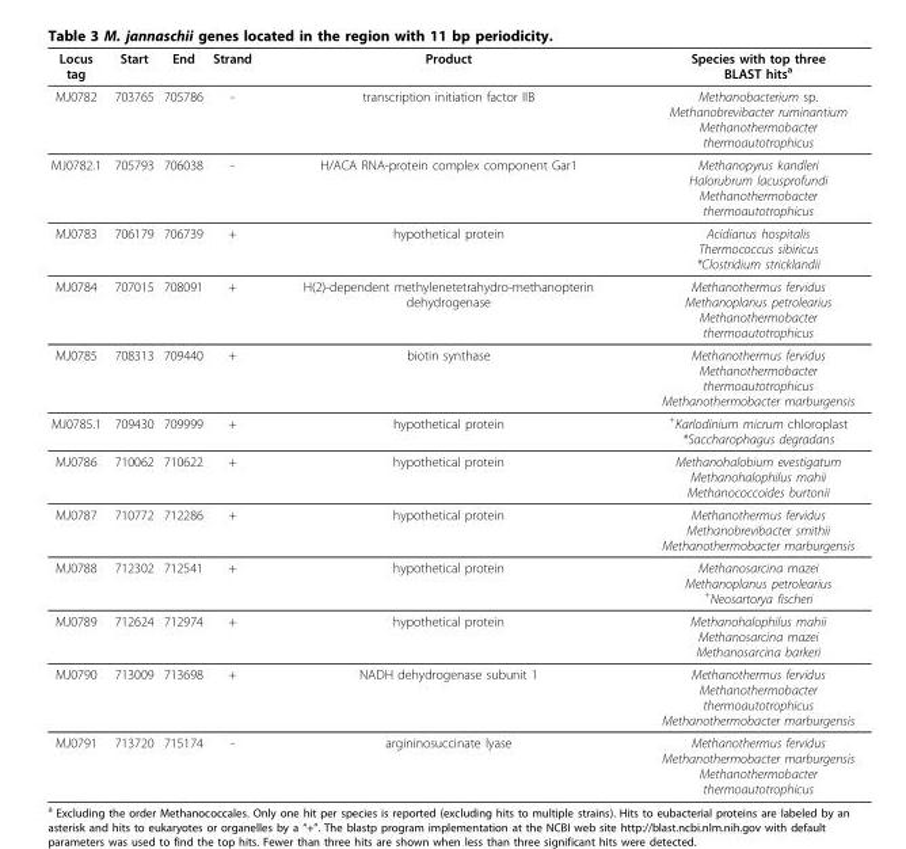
<table><thead><tr><td>Locus tag</td><td>Start</td><td>End</td><td>Strand</td><td>Product</td><td>Species with top three BLAST hitsa</td></tr></thead><tbody><tr><td>MJ0782</td><td>703765</td><td>705786</td><td>-</td><td>transcription initiation factor IIB</td><td>Methanobacterium sp. Methanobrevibacter ruminantium Methanothermobacter thermoautotrophicus</td></tr><tr><td>MJ0782.1</td><td>705793</td><td>706038</td><td>-</td><td>H/ACA RNA-protein complex component Gar1</td><td>Methanopyrus kandleri Halorubrum lacusprofundi Methanothermobacter thermoautotrophicus</td></tr><tr><td>MJ0783</td><td>706179</td><td>706739</td><td>+</td><td>hypothetical protein</td><td>Acidianus hospitalis Thermococcus sibiricus *Clostridium stricklandii</td></tr><tr><td>MJ0784</td><td>707015</td><td>708091</td><td>+</td><td>H(2)-dependent methylenetetrahydro-methanopterin dehydrogenase</td><td>Methanothermus fervidus Methanoplanus petrolearius Methanothermobacter thermoautotrophicus</td></tr><tr><td>MJ0785</td><td>708313</td><td>709440</td><td>+</td><td>biotin synthase</td><td>Methanothermus fervidus Methanothermobacter thermoautotrophicus Methanothermobacter marburgensis</td></tr><tr><td>MJ0785.1</td><td>709430</td><td>709999</td><td>+</td><td>hypothetical protein</td><td>+Karlodinium micrum chloroplast *Saccharophagus degradans</td></tr><tr><td>MJ0786</td><td>710062</td><td>710622</td><td>+</td><td>hypothetical protein</td><td>Methanohalobium evestigatum Methanohalophilus mahii Methanococcoides burtonii</td></tr><tr><td>MJ0787</td><td>710772</td><td>712286</td><td>+</td><td>hypothetical protein</td><td>Methanothermus fervidus Methanobrevibacter smithii Methanothermobacter marburgensis</td></tr><tr><td>MJ0788</td><td>712302</td><td>712541</td><td>+</td><td>hypothetical protein</td><td>Methanosarcina mazei Methanoplanus petrolearius +Neosartorya fischeri</td></tr><tr><td>MJ0789</td><td>712624</td><td>712974</td><td>+</td><td>hypothetical protein</td><td>Methanohalophilus mahii Methanosarcina mazei Methanosarcina barkeri</td></tr><tr><td>MJ0790</td><td>713009</td><td>713698</td><td>+</td><td>NADH dehydrogenase subunit 1</td><td>Methanothermus fervidus Methanothermobacter thermoautotrophicus Methanothermobacter marburgensis</td></tr><tr><td>MJ0791</td><td>713720</td><td>715174</td><td>-</td><td>argininosuccinate lyase</td><td>Methanothermus fervidus Methanothermobacter marburgensis Methanothermobacter thermoautotrophicus</td></tr></tbody></table>